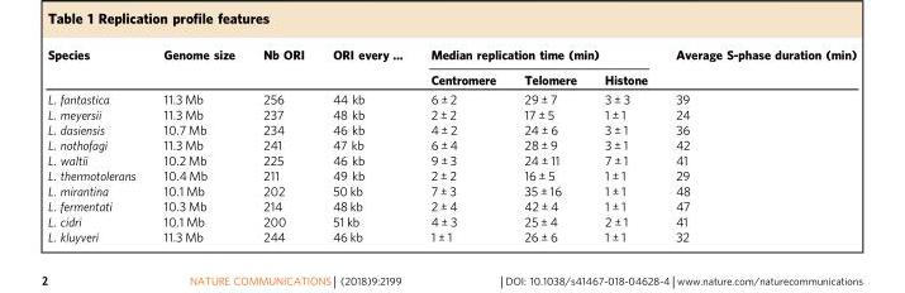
<table><thead><tr><td rowspan="2">Species</td><td rowspan="2">Genome size</td><td rowspan="2">Nb ORI</td><td rowspan="2">ORI every …</td><td colspan="3">Median replication time (min)</td><td rowspan="2">Average S-phase duration (min)</td></tr><tr><td>Centromere</td><td>Telomere</td><td>Histone</td></tr></thead><tbody><tr><td>L. fantastica</td><td>11.3 Mb</td><td>256</td><td>44 kb</td><td>6 ± 2</td><td>29 ± 7</td><td>3 ± 3</td><td>39</td></tr><tr><td>L. meyersii</td><td>11.3 Mb</td><td>237</td><td>48 kb</td><td>2 ± 2</td><td>17 ± 5</td><td>1 ± 1</td><td>24</td></tr><tr><td>L. dasiensis</td><td>10.7 Mb</td><td>234</td><td>46 kb</td><td>4 ± 2</td><td>24 ± 6</td><td>3 ± 1</td><td>36</td></tr><tr><td>L. nothofagi</td><td>11.3 Mb</td><td>241</td><td>47 kb</td><td>6 ± 4</td><td>28 ± 9</td><td>3 ± 1</td><td>42</td></tr><tr><td>L. waltii</td><td>10.2 Mb</td><td>225</td><td>46 kb</td><td>9 ± 3</td><td>24 ± 11</td><td>7 ± 1</td><td>41</td></tr><tr><td>L. thermotolerans</td><td>10.4 Mb</td><td>211</td><td>49 kb</td><td>2 ± 2</td><td>16 ± 5</td><td>1 ± 1</td><td>29</td></tr><tr><td>L. mirantina</td><td>10.1 Mb</td><td>202</td><td>50 kb</td><td>7 ± 3</td><td>35 ± 16</td><td>1 ± 1</td><td>48</td></tr><tr><td>L. fermentati</td><td>10.3 Mb</td><td>214</td><td>48 kb</td><td>2 ± 4</td><td>42 ± 4</td><td>1 ± 1</td><td>47</td></tr><tr><td>L. cidri</td><td>10.1 Mb</td><td>200</td><td>51 kb</td><td>4 ± 3</td><td>25 ± 4</td><td>2 ± 1</td><td>41</td></tr><tr><td>L. kluyveri</td><td>11.3 Mb</td><td>244</td><td>46 kb</td><td>1 ± 1</td><td>26 ± 6</td><td>1 ± 1</td><td>32</td></tr></tbody></table>